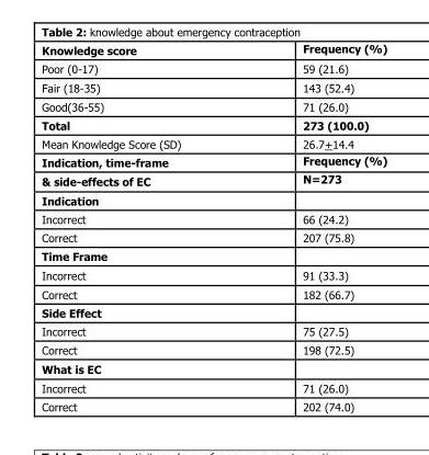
<table><thead><tr><td>Knowledge score</td><td>Frequency (%)</td></tr></thead><tbody><tr><td>Poor (0-17)</td><td>59 (21.6)</td></tr><tr><td>Fair (18-35)</td><td>143 (52.4)</td></tr><tr><td>Good(36-55)</td><td>71 (26.0)</td></tr><tr><td>Total</td><td>273 (100.0)</td></tr><tr><td>Mean Knowledge Score (SD)</td><td>26.7+14.4</td></tr><tr><td>Indication, time-frame</td><td>Frequency (%)</td></tr><tr><td>&amp; side-effects of EC</td><td>N=273</td></tr><tr><td colspan="2">Indication</td></tr><tr><td>Incorrect</td><td>66 (24.2)</td></tr><tr><td>Correct</td><td>207 (75.8)</td></tr><tr><td colspan="2">Time Frame</td></tr><tr><td>Incorrect</td><td>91 (33.3)</td></tr><tr><td>Correct</td><td>182 (66.7)</td></tr><tr><td colspan="2">Side Effect</td></tr><tr><td>Incorrect</td><td>75 (27.5)</td></tr><tr><td>Correct</td><td>198 (72.5)</td></tr><tr><td colspan="2">What is EC</td></tr><tr><td>Incorrect</td><td>71 (26.0)</td></tr><tr><td>Correct</td><td>202 (74.0)</td></tr></tbody></table>